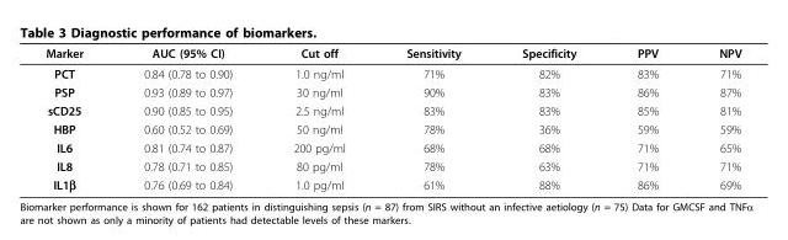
<table><thead><tr><td>Marker</td><td>AUC (95% CI)</td><td>Cut off</td><td>Sensitivity</td><td>Specificity</td><td>PPV</td><td>NPV</td></tr></thead><tbody><tr><td>PCT</td><td>0.84 (0.78 to 0.90)</td><td>1.0 ng/ml</td><td>71%</td><td>82%</td><td>83%</td><td>71%</td></tr><tr><td>PSP</td><td>0.93 (0.89 to 0.97)</td><td>30 ng/ml</td><td>90%</td><td>83%</td><td>86%</td><td>87%</td></tr><tr><td>sCD25</td><td>0.90 (0.85 to 0.95)</td><td>2.5 ng/ml</td><td>83%</td><td>83%</td><td>85%</td><td>81%</td></tr><tr><td>HBP</td><td>0.60 (0.52 to 0.69)</td><td>50 ng/ml</td><td>78%</td><td>36%</td><td>59%</td><td>59%</td></tr><tr><td>IL6</td><td>0.81 (0.74 to 0.87)</td><td>200 pg/ml</td><td>68%</td><td>68%</td><td>71%</td><td>65%</td></tr><tr><td>IL8</td><td>0.78 (0.71 to 0.85)</td><td>80 pg/ml</td><td>78%</td><td>63%</td><td>71%</td><td>71%</td></tr><tr><td>IL1β</td><td>0.76 (0.69 to 0.84)</td><td>1.0 pg/ml</td><td>61%</td><td>88%</td><td>86%</td><td>69%</td></tr></tbody></table>